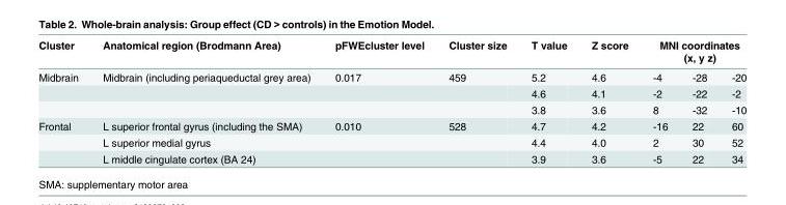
<table><thead><tr><td rowspan="2">Cluster Midbrain</td><td rowspan="2">Anatomical region (Brodmann Area) Midbrain (including periaqueductal grey area)</td><td rowspan="2">pFWEcluster level 0.017</td><td rowspan="2">Cluster size 459</td><td rowspan="2">T value 5.2</td><td rowspan="2">Z score 4.6</td><td colspan="3">MNI coordinates (x, y z)</td></tr><tr><td>-4</td><td>-28</td><td>-20</td></tr></thead><tbody><tr><td></td><td></td><td></td><td></td><td>4.6</td><td>4.1</td><td>-2</td><td>-22</td><td>-2</td></tr><tr><td></td><td></td><td></td><td></td><td>3.8</td><td>3.6</td><td>8</td><td>-32</td><td>-10</td></tr><tr><td rowspan="3">Frontal</td><td>L superior frontal gyrus (including the SMA)</td><td>0.010</td><td>528</td><td>4.7</td><td>4.2</td><td>-16</td><td>22</td><td>60</td></tr><tr><td>L superior medial gyrus</td><td></td><td></td><td>4.4</td><td>4.0</td><td>2</td><td>30</td><td>52</td></tr><tr><td>L middle cingulate cortex (BA 24)</td><td></td><td></td><td>3.9</td><td>3.6</td><td>-5</td><td>22</td><td>34</td></tr></tbody></table>